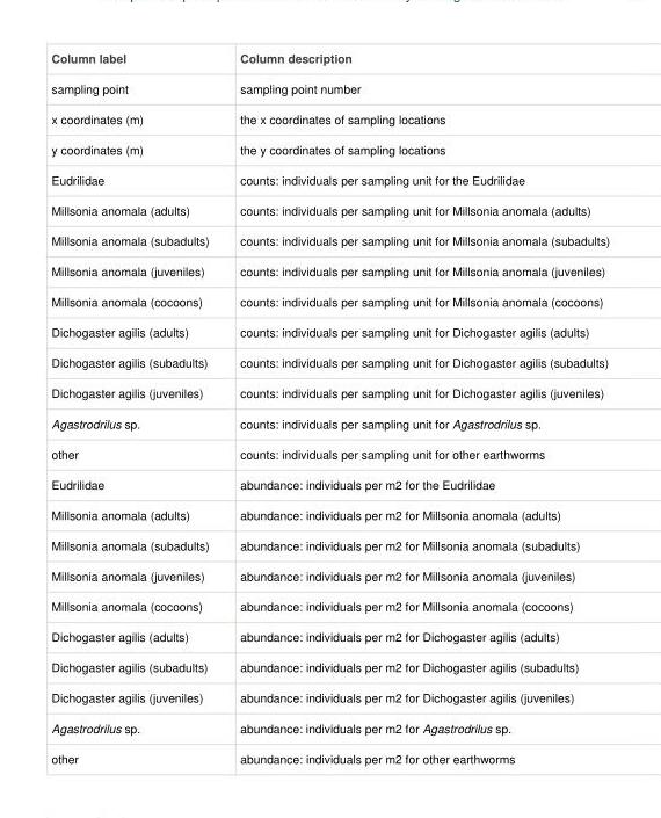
<table><thead><tr><td>Column label</td><td>Column description</td></tr></thead><tbody><tr><td>sampling point</td><td>sampling point number</td></tr><tr><td>x coordinates (m)</td><td>the x coordinates of sampling locations</td></tr><tr><td>y coordinates (m)</td><td>the y coordinates of sampling locations</td></tr><tr><td>Eudrilidae</td><td>counts: individuals per sampling unit for the Eudrilidae</td></tr><tr><td>Millsonia anomala (adults)</td><td>counts: individuals per sampling unit for Millsonia anomala (adults)</td></tr><tr><td>Millsonia anomala (subadults)</td><td>counts: individuals per sampling unit for Millsonia anomala (subadults)</td></tr><tr><td>Millsonia anomala (juveniles)</td><td>counts: individuals per sampling unit for Millsonia anomala (juveniles)</td></tr><tr><td>Millsonia anomala (cocoons)</td><td>counts: individuals per sampling unit for Millsonia anomala (cocoons)</td></tr><tr><td>Dichogaster agilis (adults)</td><td>counts: individuals per sampling unit for Dichogaster agilis (adults)</td></tr><tr><td>Dichogaster agilis (subadults)</td><td>counts: individuals per sampling unit for Dichogaster agilis (subadults)</td></tr><tr><td>Dichogaster agilis (juveniles)</td><td>counts: individuals per sampling unit for Dichogaster agilis (juveniles)</td></tr><tr><td>Agastrodrilus sp.</td><td>counts: individuals per sampling unit for Agastrodrilus sp.</td></tr><tr><td>other</td><td>counts: individuals per sampling unit for other earthworms</td></tr><tr><td>Eudrilidae</td><td>abundance: individuals per m2 for the Eudrilidae</td></tr><tr><td>Millsonia anomala (adults)</td><td>abundance: individuals per m2 for Millsonia anomala (adults)</td></tr><tr><td>Millsonia anomala (subadults)</td><td>abundance: individuals per m2 for Millsonia anomala (subadults)</td></tr><tr><td>Millsonia anomala (juveniles)</td><td>abundance: individuals per m2 for Millsonia anomala (juveniles)</td></tr><tr><td>Millsonia anomala (cocoons)</td><td>abundance: individuals per m2 for Millsonia anomala (cocoons)</td></tr><tr><td>Dichogaster agilis (adults)</td><td>abundance: individuals per m2 for Dichogaster agilis (adults)</td></tr><tr><td>Dichogaster agilis (subadults)</td><td>abundance: individuals per m2 for Dichogaster agilis (subadults)</td></tr><tr><td>Dichogaster agilis (juveniles)</td><td>abundance: individuals per m2 for Dichogaster agilis (juveniles)</td></tr><tr><td>Agastrodrilus sp.</td><td>abundance: individuals per m2 for Agastrodrilus sp.</td></tr><tr><td>other</td><td>abundance: individuals per m2 for other earthworms</td></tr></tbody></table>